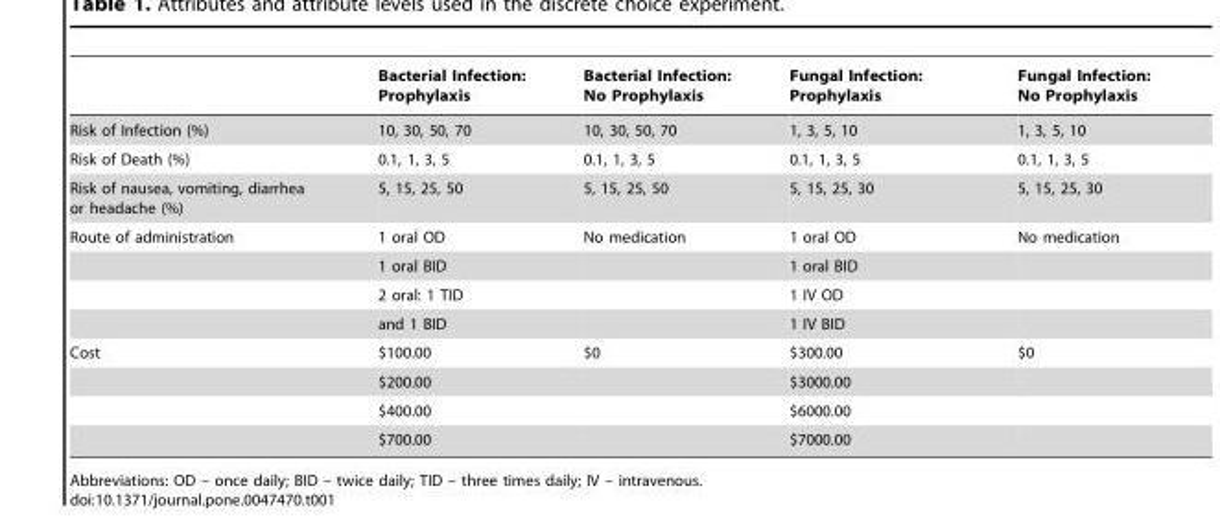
<table><thead><tr><td></td><td>Bacterial Infection: Prophylaxis</td><td>Bacterial Infection: No Prophylaxis</td><td>Fungal Infection: Prophylaxis</td><td>Fungal Infection: No Prophylaxis</td></tr></thead><tbody><tr><td>Risk of Infection (%)</td><td>10, 30, 50, 70</td><td>10, 30, 50, 70</td><td>1, 3, 5, 10</td><td>1, 3, 5, 10</td></tr><tr><td>Risk of Death (%)</td><td>0.1, 1, 3, 5</td><td>0.1, 1, 3, 5</td><td>0.1, 1, 3, 5</td><td>0.1, 1, 3, 5</td></tr><tr><td>Risk of nausea, vomiting, diarrhea or headache (%)</td><td>5, 15, 25, 50</td><td>5, 15, 25, 50</td><td>5, 15, 25, 30</td><td>5, 15, 25, 30</td></tr><tr><td rowspan="4">Route of administration</td><td>1 oral OD</td><td>No medication</td><td>1 oral OD</td><td>No medication</td></tr><tr><td>1 oral BID</td><td></td><td>1 oral BID</td><td></td></tr><tr><td>2 oral: 1 TID</td><td></td><td>1 IV OD</td><td></td></tr><tr><td>and 1 BID</td><td></td><td>1 IV BID</td><td></td></tr><tr><td rowspan="4">Cost</td><td>$100.00</td><td>$0</td><td>$300.00</td><td>$0</td></tr><tr><td>$200.00</td><td></td><td>$3000.00</td><td></td></tr><tr><td>$400.00</td><td></td><td>$6000.00</td><td></td></tr><tr><td>$700.00</td><td></td><td>$7000.00</td><td></td></tr></tbody></table>